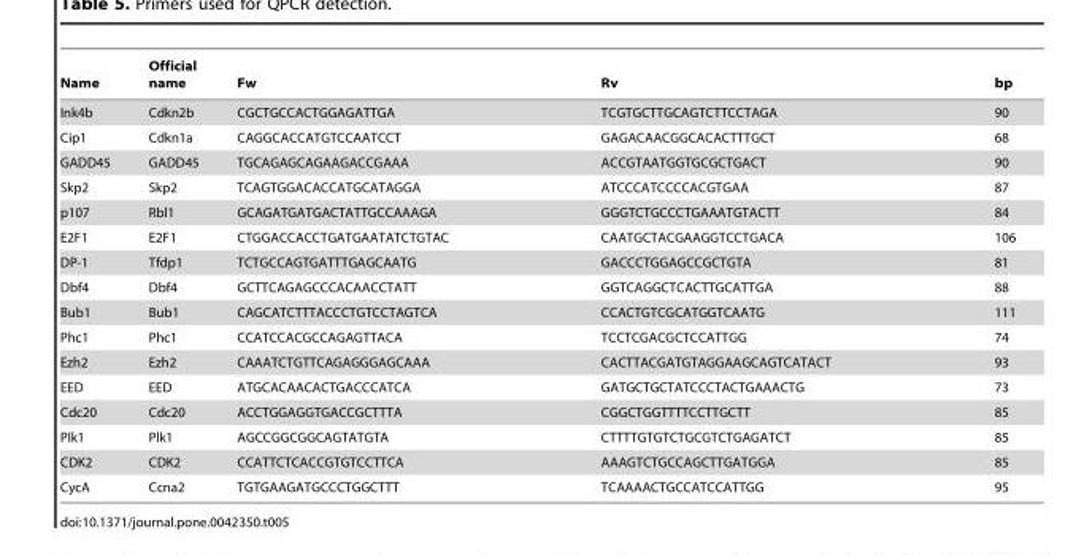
<table><thead><tr><td>Name</td><td>Official name</td><td>Fw</td><td>Rv</td><td>bp</td></tr></thead><tbody><tr><td>Ink4b</td><td>Cdkn2b</td><td>CGCTGCCACTGGAGATTGA</td><td>TCGTGCTTGCAGTCTTCCTAGA</td><td>90</td></tr><tr><td>Cip1</td><td>Cdkn1a</td><td>CAGGCACCATGTCCAATCCT</td><td>GAGACAACGGCACACTTTGCT</td><td>68</td></tr><tr><td>GADD45</td><td>GADD45</td><td>TGCAGAGCAGAAGACCGAAA</td><td>ACCGTAATGGTGCGCTGACT</td><td>90</td></tr><tr><td>Skp2</td><td>Skp2</td><td>TCAGTGGACACCATGCATAGGA</td><td>ATCCCATCCCCACGTGAA</td><td>87</td></tr><tr><td>p107</td><td>Rbl1</td><td>GCAGATGATGACTATTGCCAAAGA</td><td>GGGTCTGCCCTGAAATGTACTT</td><td>84</td></tr><tr><td>E2F1</td><td>E2F1</td><td>CTGGACCACCTGATGAATATCTGTAC</td><td>CAATGCTACGAAGGTCCTGACA</td><td>106</td></tr><tr><td>DP-1</td><td>Tfdp1</td><td>TCTGCCAGTGATTTGAGCAATG</td><td>GACCCTGGAGCCGCTGTA</td><td>81</td></tr><tr><td>Dbf4</td><td>Dbf4</td><td>GCTTCAGAGCCCACAACCTATT</td><td>GGTCAGGCTCACTTGCATTGA</td><td>88</td></tr><tr><td>Bub1</td><td>Bub1</td><td>CAGCATCTTTACCCTGTCCTAGTCA</td><td>CCACTGTCGCATGGTCAATG</td><td>111</td></tr><tr><td>Phc1</td><td>Phc1</td><td>CCATCCACGCCAGAGTTACA</td><td>TCCTCGACGCTCCATTGG</td><td>74</td></tr><tr><td>Ezh2</td><td>Ezh2</td><td>CAAATCTGTTCAGAGGGAGCAAA</td><td>CACTTACGATGTAGGAAGCAGTCATACT</td><td>93</td></tr><tr><td>EED</td><td>EED</td><td>ATGCACAACACTGACCCATCA</td><td>GATGCTGCTATCCCTACTGAAACTG</td><td>73</td></tr><tr><td>Cdc20</td><td>Cdc20</td><td>ACCTGGAGGTGACCGCTTTA</td><td>CGGCTGGTTTTCCTTGCTT</td><td>85</td></tr><tr><td>Plk1</td><td>Plk1</td><td>AGCCGGCGGCAGTATGTA</td><td>CTTTTGTGTCTGCGTCTGAGATCT</td><td>85</td></tr><tr><td>CDK2</td><td>CDK2</td><td>CCATTCTCACCGTGTCCTTCA</td><td>AAAGTCTGCCAGCTTGATGGA</td><td>85</td></tr><tr><td>CycA</td><td>Ccna2</td><td>TGTGAAGATGCCCTGGCTTT</td><td>TCAAAACTGCCATCCATTGG</td><td>95</td></tr></tbody></table>